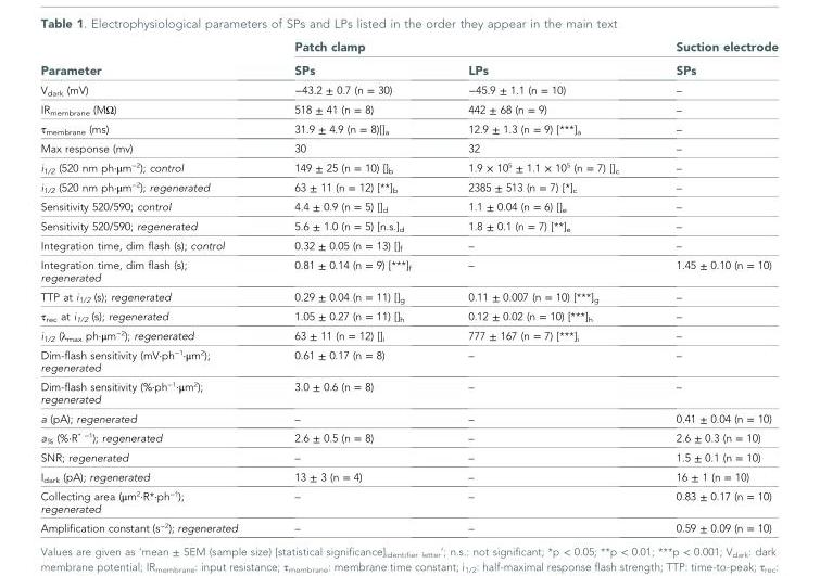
<table><thead><tr><td rowspan="2">Parameter</td><td colspan="2">Patch clamp</td><td rowspan="2">Suction electrode SPs</td></tr><tr><td>SPs</td><td>LPs</td></tr></thead><tbody><tr><td>V<sub>dark</sub> (mV)</td><td>−43.2 ± 0.7 (n = 30)</td><td>−45.9 ± 1.1 (n = 10)</td><td>–</td></tr><tr><td>IR<sub>membrane</sub> (MΩ)</td><td>518 ± 41 (n = 8)</td><td>442 ± 68 (n = 9)</td><td>–</td></tr><tr><td>τ<sub>membrane</sub> (ms)</td><td>31.9 ± 4.9 (n = 8)[]<sub>a</sub></td><td>12.9 ± 1.3 (n = 9) [***]<sub>a</sub></td><td>–</td></tr><tr><td>Max response (mv)</td><td>30</td><td>32</td><td>–</td></tr><tr><td>i<sub>1/2</sub> (520 nm ph·μm<sup>−2</sup>); control</td><td>149 ± 25 (n = 10) []<sub>b</sub></td><td>1.9 × 10<sup>5</sup> ± 1.1 × 10<sup>5</sup> (n = 7) []<sub>c</sub></td><td>–</td></tr><tr><td>i<sub>1/2</sub> (520 nm ph·μm<sup>−2</sup>); regenerated</td><td>63 ± 11 (n = 12) [**]<sub>b</sub></td><td>2385 ± 513 (n = 7) [*]<sub>c</sub></td><td>–</td></tr><tr><td>Sensitivity 520/590; control</td><td>4.4 ± 0.9 (n = 5) []<sub>d</sub></td><td>1.1 ± 0.04 (n = 6) []<sub>e</sub></td><td>–</td></tr><tr><td>Sensitivity 520/590; regenerated</td><td>5.6 ± 1.0 (n = 5) [n.s.]<sub>d</sub></td><td>1.8 ± 0.1 (n = 7) [**]<sub>e</sub></td><td>–</td></tr><tr><td>Integration time, dim flash (s); control</td><td>0.32 ± 0.05 (n = 13) []<sub>f</sub></td><td>–</td><td>–</td></tr><tr><td>Integration time, dim flash (s); regenerated</td><td>0.81 ± 0.14 (n = 9) [***]<sub>f</sub></td><td>–</td><td>1.45 ± 0.10 (n = 10)</td></tr><tr><td>TTP at i<sub>1/2</sub> (s); regenerated</td><td>0.29 ± 0.04 (n = 11) []<sub>g</sub></td><td>0.11 ± 0.007 (n = 10) [***]<sub>g</sub></td><td>–</td></tr><tr><td>τ<sub>rec</sub> at i<sub>1/2</sub> (s); regenerated</td><td>1.05 ± 0.27 (n = 11) []<sub>h</sub></td><td>0.12 ± 0.02 (n = 10) [***]<sub>h</sub></td><td>–</td></tr><tr><td>i<sub>1/2</sub> (λ<sub>max</sub> ph·μm<sup>−2</sup>); regenerated</td><td>63 ± 11 (n = 12) []<sub>i</sub></td><td>777 ± 167 (n = 7) [***]<sub>i</sub></td><td>–</td></tr><tr><td>Dim-flash sensitivity (mV·ph<sup>−1</sup>·μm<sup>2</sup>); regenerated</td><td>0.61 ± 0.17 (n = 8)</td><td>–</td><td>–</td></tr><tr><td>Dim-flash sensitivity (%·ph<sup>−1</sup>·μm<sup>2</sup>); regenerated</td><td>3.0 ± 0.6 (n = 8)</td><td>–</td><td>–</td></tr><tr><td>a (pA); regenerated</td><td>–</td><td>–</td><td>0.41 ± 0.04 (n = 10)</td></tr><tr><td>a<sub>%</sub> (%·R<sup>* −1</sup>); regenerated</td><td>2.6 ± 0.5 (n = 8)</td><td>–</td><td>2.6 ± 0.3 (n = 10)</td></tr><tr><td>SNR; regenerated</td><td>–</td><td>–</td><td>1.5 ± 0.1 (n = 10)</td></tr><tr><td>I<sub>dark</sub> (pA); regenerated</td><td>13 ± 3 (n = 4)</td><td>–</td><td>16 ± 1 (n = 10)</td></tr><tr><td>Collecting area (μm<sup>2</sup>·R*·ph<sup>−1</sup>); regenerated</td><td>–</td><td>–</td><td>0.83 ± 0.17 (n = 10)</td></tr><tr><td>Amplification constant (s<sup>−2</sup>); regenerated</td><td>–</td><td>–</td><td>0.59 ± 0.09 (n = 10)</td></tr></tbody></table>